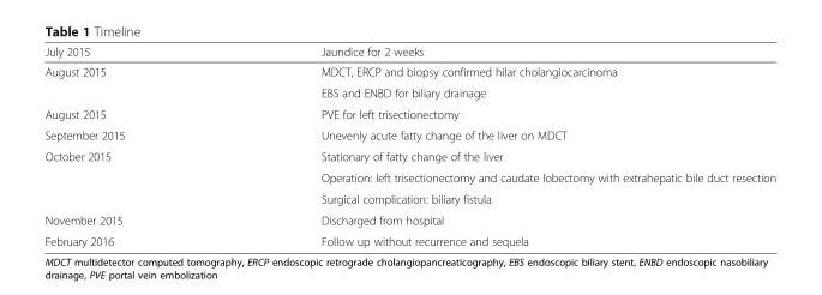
<table><thead><tr><td>July 2015</td><td>Jaundice for 2 weeks</td></tr></thead><tbody><tr><td rowspan="2">August 2015</td><td>MDCT, ERCP and biopsy confirmed hilar cholangiocarcinoma</td></tr><tr><td>EBS and ENBD for biliary drainage</td></tr><tr><td>August 2015</td><td>PVE for left trisectionectomy</td></tr><tr><td>September 2015</td><td>Unevenly acute fatty change of the liver on MDCT</td></tr><tr><td rowspan="3">October 2015</td><td>Stationary of fatty change of the liver</td></tr><tr><td>Operation: left trisectionectomy and caudate lobectomy with extrahepatic bile duct resection</td></tr><tr><td>Surgical complication: biliary fistula</td></tr><tr><td>November 2015</td><td>Discharged from hospital</td></tr><tr><td>February 2016</td><td>Follow up without recurrence and sequela</td></tr></tbody></table>